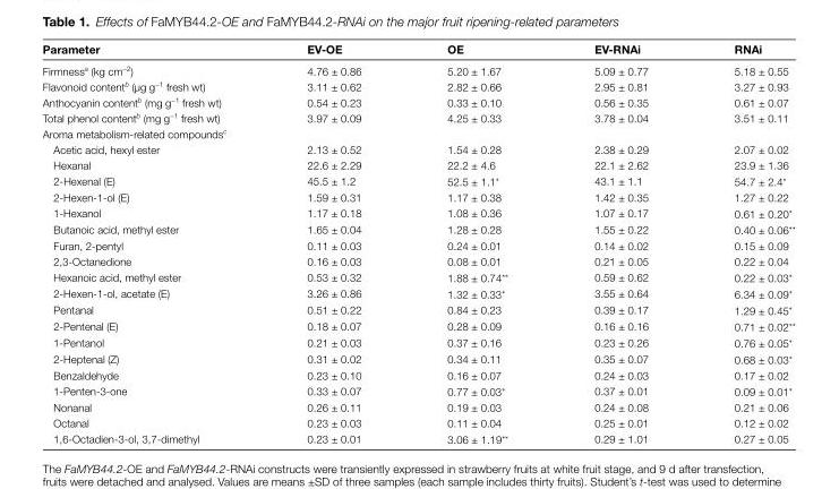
<table><thead><tr><td>Parameter</td><td>EV-OE</td><td>OE</td><td>EV-RNAi</td><td>RNAi</td></tr></thead><tbody><tr><td>Firmness<sup>a</sup> (kg cm<sup>−2</sup>)</td><td>4.76 ± 0.86</td><td>5.20 ± 1.67</td><td>5.09 ± 0.77</td><td>5.18 ± 0.55</td></tr><tr><td>Flavonoid content<sup>b</sup> (μg g<sup>−1</sup> fresh wt)</td><td>3.11 ± 0.62</td><td>2.82 ± 0.66</td><td>2.95 ± 0.81</td><td>3.27 ± 0.93</td></tr><tr><td>Anthocyanin content<sup>b</sup> (mg g<sup>−1</sup> fresh wt)</td><td>0.54 ± 0.23</td><td>0.33 ± 0.10</td><td>0.56 ± 0.35</td><td>0.61 ± 0.07</td></tr><tr><td>Total phenol content<sup>b</sup> (mg g<sup>−1</sup> fresh wt)</td><td>3.97 ± 0.09</td><td>4.25 ± 0.33</td><td>3.78 ± 0.04</td><td>3.51 ± 0.11</td></tr><tr><td colspan="5">Aroma metabolism-related compounds<sup>c</sup></td></tr><tr><td>Acetic acid, hexyl ester</td><td>2.13 ± 0.52</td><td>1.54 ± 0.28</td><td>2.38 ± 0.29</td><td>2.07 ± 0.02</td></tr><tr><td>Hexanal</td><td>22.6 ± 2.29</td><td>22.2 ± 4.6</td><td>22.1 ± 2.62</td><td>23.9 ± 1.36</td></tr><tr><td>2-Hexenal (E)</td><td>45.5 ± 1.2</td><td>52.5 ± 1.1∗</td><td>43.1 ± 1.1</td><td>54.7 ± 2.4∗</td></tr><tr><td>2-Hexen-1-ol (E)</td><td>1.59 ± 0.31</td><td>1.17 ± 0.38</td><td>1.42 ± 0.35</td><td>1.27 ± 0.22</td></tr><tr><td>1-Hexanol</td><td>1.17 ± 0.18</td><td>1.08 ± 0.36</td><td>1.07 ± 0.17</td><td>0.61 ± 0.20∗</td></tr><tr><td>Butanoic acid, methyl ester</td><td>1.65 ± 0.04</td><td>1.28 ± 0.28</td><td>1.55 ± 0.22</td><td>0.40 ± 0.06∗∗</td></tr><tr><td>Furan, 2-pentyl</td><td>0.11 ± 0.03</td><td>0.24 ± 0.01</td><td>0.14 ± 0.02</td><td>0.15 ± 0.09</td></tr><tr><td>2,3-Octanedione</td><td>0.16 ± 0.03</td><td>0.08 ± 0.01</td><td>0.21 ± 0.05</td><td>0.22 ± 0.04</td></tr><tr><td>Hexanoic acid, methyl ester</td><td>0.53 ± 0.32</td><td>1.88 ± 0.74∗∗</td><td>0.59 ± 0.62</td><td>0.22 ± 0.03∗</td></tr><tr><td>2-Hexen-1-ol, acetate (E)</td><td>3.26 ± 0.86</td><td>1.32 ± 0.33∗</td><td>3.55 ± 0.64</td><td>6.34 ± 0.09∗</td></tr><tr><td>Pentanal</td><td>0.51 ± 0.22</td><td>0.84 ± 0.23</td><td>0.39 ± 0.17</td><td>1.29 ± 0.45∗</td></tr><tr><td>2-Pentenal (E)</td><td>0.18 ± 0.07</td><td>0.28 ± 0.09</td><td>0.16 ± 0.16</td><td>0.71 ± 0.02∗∗</td></tr><tr><td>1-Pentanol</td><td>0.21 ± 0.03</td><td>0.37 ± 0.16</td><td>0.23 ± 0.26</td><td>0.76 ± 0.05∗</td></tr><tr><td>2-Heptenal (Z)</td><td>0.31 ± 0.02</td><td>0.34 ± 0.11</td><td>0.35 ± 0.07</td><td>0.68 ± 0.03∗</td></tr><tr><td>Benzaldehyde</td><td>0.23 ± 0.10</td><td>0.16 ± 0.07</td><td>0.24 ± 0.03</td><td>0.17 ± 0.02</td></tr><tr><td>1-Penten-3-one</td><td>0.33 ± 0.07</td><td>0.77 ± 0.03∗</td><td>0.37 ± 0.01</td><td>0.09 ± 0.01∗</td></tr><tr><td>Nonanal</td><td>0.26 ± 0.11</td><td>0.19 ± 0.03</td><td>0.24 ± 0.08</td><td>0.21 ± 0.06</td></tr><tr><td>Octanal</td><td>0.23 ± 0.03</td><td>0.11 ± 0.04</td><td>0.25 ± 0.01</td><td>0.12 ± 0.02</td></tr><tr><td>1,6-Octadien-3-ol, 3,7-dimethyl</td><td>0.23 ± 0.01</td><td>3.06 ± 1.19∗∗</td><td>0.29 ± 1.01</td><td>0.27 ± 0.05</td></tr></tbody></table>